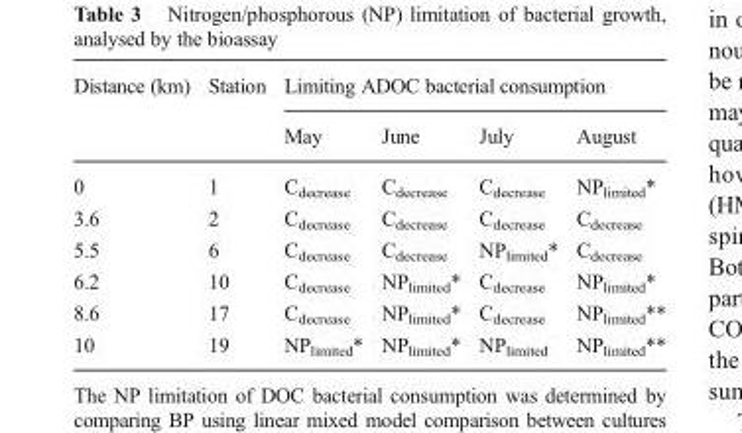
<table><thead><tr><td rowspan="2">Distance (km)</td><td rowspan="2">Station</td><td colspan="4">Limiting ADOC bacterial consumption</td></tr><tr><td>May</td><td>June</td><td>July</td><td>August</td></tr></thead><tbody><tr><td>0</td><td>1</td><td>C<sub>decrease</sub></td><td>C<sub>decrease</sub></td><td>C<sub>decrease</sub></td><td>NP<sub>limited</sub>*</td></tr><tr><td>3.6</td><td>2</td><td>C<sub>decrease</sub></td><td>C<sub>decrease</sub></td><td>C<sub>decrease</sub></td><td>C<sub>decrease</sub></td></tr><tr><td>5.5</td><td>6</td><td>C<sub>decrease</sub></td><td>C<sub>decrease</sub></td><td>NP<sub>limited</sub>*</td><td>C<sub>decrease</sub></td></tr><tr><td>6.2</td><td>10</td><td>C<sub>decrease</sub></td><td>NP<sub>limited</sub>*</td><td>C<sub>decrease</sub></td><td>NP<sub>limited</sub>*</td></tr><tr><td>8.6</td><td>17</td><td>C<sub>decrease</sub></td><td>NP<sub>limited</sub>*</td><td>C<sub>decrease</sub></td><td>NP<sub>limited</sub>**</td></tr><tr><td>10</td><td>19</td><td>NP<sub>limited</sub>*</td><td>NP<sub>limited</sub>*</td><td>NP<sub>limited</sub></td><td>NP<sub>limited</sub>**</td></tr></tbody></table>